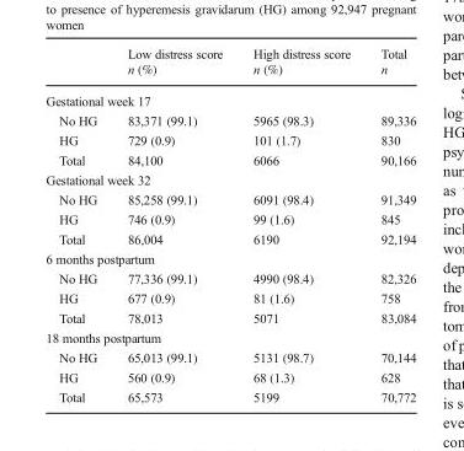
<table><thead><tr><td></td><td>Low distress score n (%)</td><td>High distress score n (%)</td><td>Total n</td></tr></thead><tbody><tr><td colspan="4">Gestational week 17</td></tr><tr><td>No HG</td><td>83,371 (99.1)</td><td>5965 (98.3)</td><td>89,336</td></tr><tr><td>HG</td><td>729 (0.9)</td><td>101 (1.7)</td><td>830</td></tr><tr><td>Total</td><td>84,100</td><td>6066</td><td>90,166</td></tr><tr><td colspan="4">Gestational week 32</td></tr><tr><td>No HG</td><td>85,258 (99.1)</td><td>6091 (98.4)</td><td>91,349</td></tr><tr><td>HG</td><td>746 (0.9)</td><td>99 (1.6)</td><td>845</td></tr><tr><td>Total</td><td>86,004</td><td>6190</td><td>92,194</td></tr><tr><td colspan="4">6 months postpartum</td></tr><tr><td>No HG</td><td>77,336 (99.1)</td><td>4990 (98.4)</td><td>82,326</td></tr><tr><td>HG</td><td>677 (0.9)</td><td>81 (1.6)</td><td>758</td></tr><tr><td>Total</td><td>78,013</td><td>5071</td><td>83,084</td></tr><tr><td colspan="4">18 months postpartum</td></tr><tr><td>No HG</td><td>65,013 (99.1)</td><td>5131 (98.7)</td><td>70,144</td></tr><tr><td>HG</td><td>560 (0.9)</td><td>68 (1.3)</td><td>628</td></tr><tr><td>Total</td><td>65,573</td><td>5199</td><td>70,772</td></tr></tbody></table>